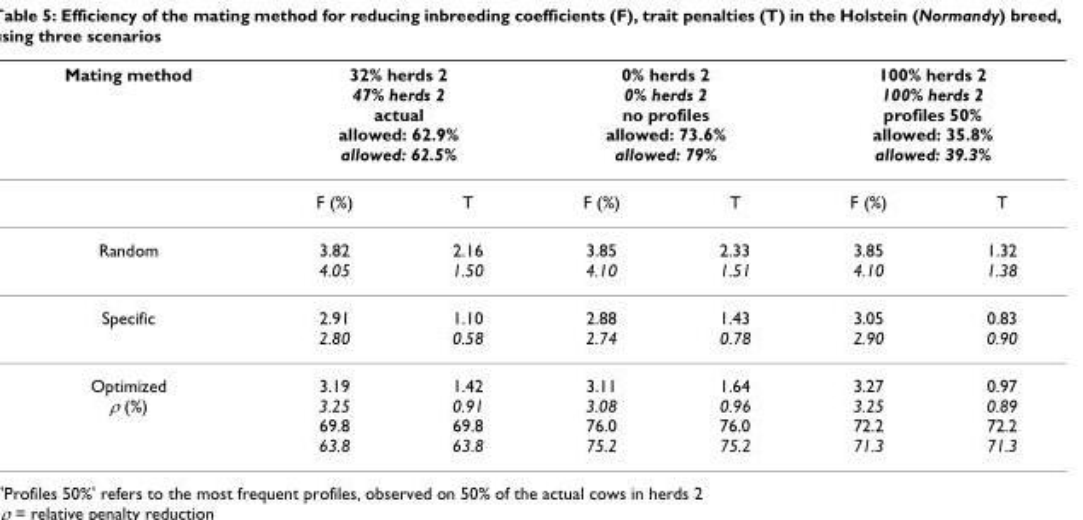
<table><thead><tr><td rowspan="2">Mating method</td><td colspan="2">32% herds 2 47% herds 2 actual allowed: 62.9% allowed: 62.5%</td><td colspan="2">0% herds 2 0% herds 2 no profiles allowed: 73.6% allowed: 79%</td><td colspan="2">100% herds 2 100% herds 2 profiles 50% allowed: 35.8% allowed: 39.3%</td></tr><tr><td>F (%)</td><td>T</td><td>F (%)</td><td>T</td><td>F (%)</td><td>T</td></tr></thead><tbody><tr><td>Random</td><td>3.82 4.05</td><td>2.16 1.50</td><td>3.85 4.10</td><td>2.33 1.51</td><td>3.85 4.10</td><td>1.32 1.38</td></tr><tr><td>Specific</td><td>2.91 2.80</td><td>1.10 0.58</td><td>2.88 2.74</td><td>1.43 0.78</td><td>3.05 2.90</td><td>0.83 0.90</td></tr><tr><td>Optimized ρ (%)</td><td>3.19 3.25 69.8 63.8</td><td>1.42 0.91 69.8 63.8</td><td>3.11 3.08 76.0 75.2</td><td>1.64 0.96 76.0 75.2</td><td>3.27 3.25 72.2 71.3</td><td>0.97 0.89 72.2 71.3</td></tr></tbody></table>